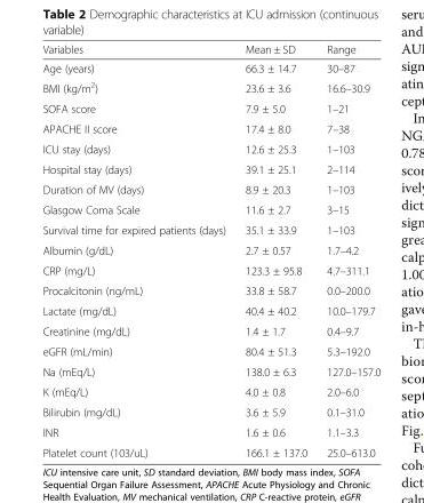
<table><thead><tr><td>Variables</td><td>Mean ± SD</td><td>Range</td></tr></thead><tbody><tr><td>Age (years)</td><td>66.3 ± 14.7</td><td>30–87</td></tr><tr><td>BMI (kg/m<sup>2</sup>)</td><td>23.6 ± 3.6</td><td>16.6–30.9</td></tr><tr><td>SOFA score</td><td>7.9 ± 5.0</td><td>1–21</td></tr><tr><td>APACHE II score</td><td>17.4 ± 8.0</td><td>7–38</td></tr><tr><td>ICU stay (days)</td><td>12.6 ± 25.3</td><td>1–103</td></tr><tr><td>Hospital stay (days)</td><td>39.1 ± 25.1</td><td>2–114</td></tr><tr><td>Duration of MV (days)</td><td>8.9 ± 20.3</td><td>1–103</td></tr><tr><td>Glasgow Coma Scale</td><td>11.6 ± 2.7</td><td>3–15</td></tr><tr><td>Survival time for expired patients (days)</td><td>35.1 ± 33.9</td><td>1–103</td></tr><tr><td>Albumin (g/dL)</td><td>2.7 ± 0.57</td><td>1.7–4.2</td></tr><tr><td>CRP (mg/L)</td><td>123.3 ± 95.8</td><td>4.7–311.1</td></tr><tr><td>Procalcitonin (ng/mL)</td><td>33.8 ± 58.7</td><td>0.0–200.0</td></tr><tr><td>Lactate (mg/dL)</td><td>40.4 ± 40.2</td><td>10.0–179.7</td></tr><tr><td>Creatinine (mg/dL)</td><td>1.4 ± 1.7</td><td>0.4–9.7</td></tr><tr><td>eGFR (mL/min)</td><td>80.4 ± 51.3</td><td>5.3–192.0</td></tr><tr><td>Na (mEq/L)</td><td>138.0 ± 6.3</td><td>127.0–157.0</td></tr><tr><td>K (mEq/L)</td><td>4.0 ± 0.8</td><td>2.0–6.0</td></tr><tr><td>Bilirubin (mg/dL)</td><td>3.6 ± 5.9</td><td>0.1–31.0</td></tr><tr><td>INR</td><td>1.6 ± 0.6</td><td>1.1–3.3</td></tr><tr><td>Platelet count (103/uL)</td><td>166.1 ± 137.0</td><td>25.0–613.0</td></tr></tbody></table>